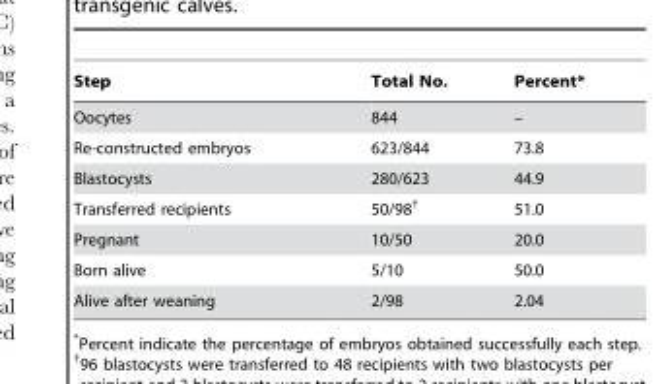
<table><thead><tr><td>Step</td><td>Total No.</td><td>Percent*</td></tr></thead><tbody><tr><td>Oocytes</td><td>844</td><td>–</td></tr><tr><td>Re-constructed embryos</td><td>623/844</td><td>73.8</td></tr><tr><td>Blastocysts</td><td>280/623</td><td>44.9</td></tr><tr><td>Transferred recipients</td><td>50/98†</td><td>51.0</td></tr><tr><td>Pregnant</td><td>10/50</td><td>20.0</td></tr><tr><td>Born alive</td><td>5/10</td><td>50.0</td></tr><tr><td>Alive after weaning</td><td>2/98</td><td>2.04</td></tr></tbody></table>